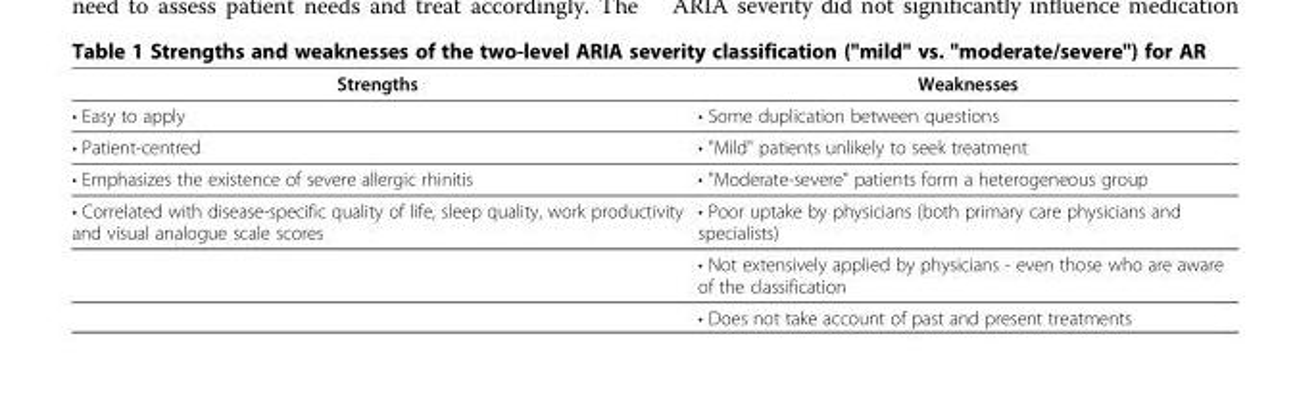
<table><thead><tr><td>Strengths</td><td>Weaknesses</td></tr></thead><tbody><tr><td>• Easy to apply</td><td>• Some duplication between questions</td></tr><tr><td>• Patient-centred</td><td>• &quot;Mild&quot; patients unlikely to seek treatment</td></tr><tr><td>• Emphasizes the existence of severe allergic rhinitis</td><td>• &quot;Moderate-severe&quot; patients form a heterogeneous group</td></tr><tr><td rowspan="3">• Correlated with disease-specific quality of life, sleep quality, work productivity and visual analogue scale scores</td><td>• Poor uptake by physicians (both primary care physicians and specialists)</td></tr><tr><td>• Not extensively applied by physicians - even those who are aware of the classification</td></tr><tr><td>• Does not take account of past and present treatments</td></tr></tbody></table>